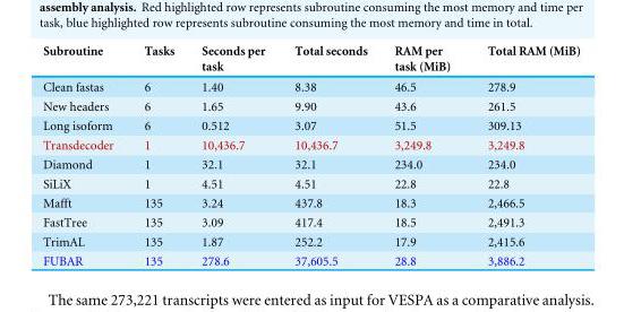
<table><thead><tr><td>Subroutine</td><td>Tasks</td><td>Seconds per task</td><td>Total seconds</td><td>RAM per task (MiB)</td><td>Total RAM (MiB)</td></tr></thead><tbody><tr><td>Clean fastas</td><td>6</td><td>1.40</td><td>8.38</td><td>46.5</td><td>278.9</td></tr><tr><td>New headers</td><td>6</td><td>1.65</td><td>9.90</td><td>43.6</td><td>261.5</td></tr><tr><td>Long isoform</td><td>6</td><td>0.512</td><td>3.07</td><td>51.5</td><td>309.13</td></tr><tr><td>Transdecoder</td><td>1</td><td>10,436.7</td><td>10,436.7</td><td>3,249.8</td><td>3,249.8</td></tr><tr><td>Diamond</td><td>1</td><td>32.1</td><td>32.1</td><td>234.0</td><td>234.0</td></tr><tr><td>SiLiX</td><td>1</td><td>4.51</td><td>4.51</td><td>22.8</td><td>22.8</td></tr><tr><td>Mafft</td><td>135</td><td>3.24</td><td>437.8</td><td>18.3</td><td>2,466.5</td></tr><tr><td>FastTree</td><td>135</td><td>3.09</td><td>417.4</td><td>18.5</td><td>2,491.3</td></tr><tr><td>TrimAL</td><td>135</td><td>1.87</td><td>252.2</td><td>17.9</td><td>2,415.6</td></tr><tr><td>FUBAR</td><td>135</td><td>278.6</td><td>37,605.5</td><td>28.8</td><td>3,886.2</td></tr></tbody></table>